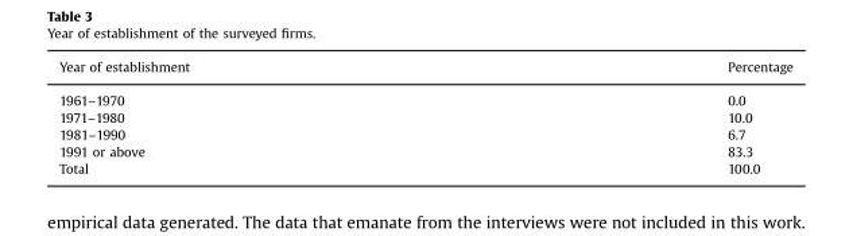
<table><thead><tr><td>Year of establishment</td><td>Percentage</td></tr></thead><tbody><tr><td>1961–1970</td><td>0.0</td></tr><tr><td>1971–1980</td><td>10.0</td></tr><tr><td>1981–1990</td><td>6.7</td></tr><tr><td>1991 or above</td><td>83.3</td></tr><tr><td>Total</td><td>100.0</td></tr></tbody></table>